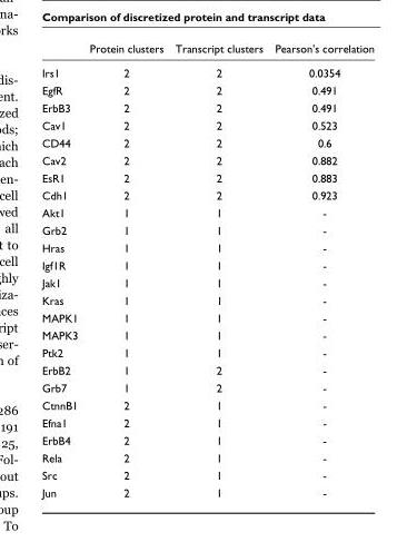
<table><thead><tr><td></td><td>Protein clusters</td><td>Transcript clusters</td><td>Pearson&#x27;s correlation</td></tr></thead><tbody><tr><td>Irs1</td><td>2</td><td>2</td><td>0.0354</td></tr><tr><td>EgfR</td><td>2</td><td>2</td><td>0.491</td></tr><tr><td>ErbB3</td><td>2</td><td>2</td><td>0.491</td></tr><tr><td>Cav1</td><td>2</td><td>2</td><td>0.523</td></tr><tr><td>CD44</td><td>2</td><td>2</td><td>0.6</td></tr><tr><td>Cav2</td><td>2</td><td>2</td><td>0.882</td></tr><tr><td>EsR1</td><td>2</td><td>2</td><td>0.883</td></tr><tr><td>Cdh1</td><td>2</td><td>2</td><td>0.923</td></tr><tr><td>Akt1</td><td>1</td><td>1</td><td>-</td></tr><tr><td>Grb2</td><td>1</td><td>1</td><td>-</td></tr><tr><td>Hras</td><td>1</td><td>1</td><td>-</td></tr><tr><td>Igf1R</td><td>1</td><td>1</td><td>-</td></tr><tr><td>Jak1</td><td>1</td><td>1</td><td>-</td></tr><tr><td>Kras</td><td>1</td><td>1</td><td>-</td></tr><tr><td>MAPK1</td><td>1</td><td>1</td><td>-</td></tr><tr><td>MAPK3</td><td>1</td><td>1</td><td>-</td></tr><tr><td>Ptk2</td><td>1</td><td>1</td><td>-</td></tr><tr><td>ErbB2</td><td>1</td><td>2</td><td>-</td></tr><tr><td>Grb7</td><td>1</td><td>2</td><td>-</td></tr><tr><td>CtnnB1</td><td>2</td><td>1</td><td>-</td></tr><tr><td>Efna1</td><td>2</td><td>1</td><td>-</td></tr><tr><td>ErbB4</td><td>2</td><td>1</td><td>-</td></tr><tr><td>Rela</td><td>2</td><td>1</td><td>-</td></tr><tr><td>Src</td><td>2</td><td>1</td><td>-</td></tr><tr><td>Jun</td><td>2</td><td>1</td><td>-</td></tr></tbody></table>